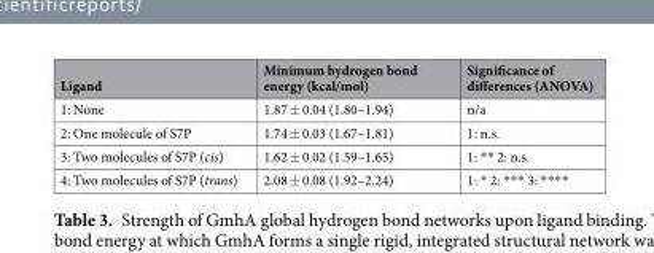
<table><thead><tr><td>Ligand</td><td>Minimum hydrogen bond energy (kcal/mol)</td><td>Significance of differences (ANOVA)</td></tr></thead><tbody><tr><td>1: None</td><td>1.87 ± 0.04 (1.80–1.94)</td><td>n/a</td></tr><tr><td>2: One molecule of S7P</td><td>1.74 ± 0.03 (1.67–1.81)</td><td>1: n.s.</td></tr><tr><td>3: Two molecules of S7P (cis)</td><td>1.62 ± 0.02 (1.59–1.65)</td><td>1: ** 2: n.s.</td></tr><tr><td>4: Two molecules of S7P (trans)</td><td>2.08 ± 0.08 (1.92–2.24)</td><td>1: * 2: *** 3: ****</td></tr></tbody></table>